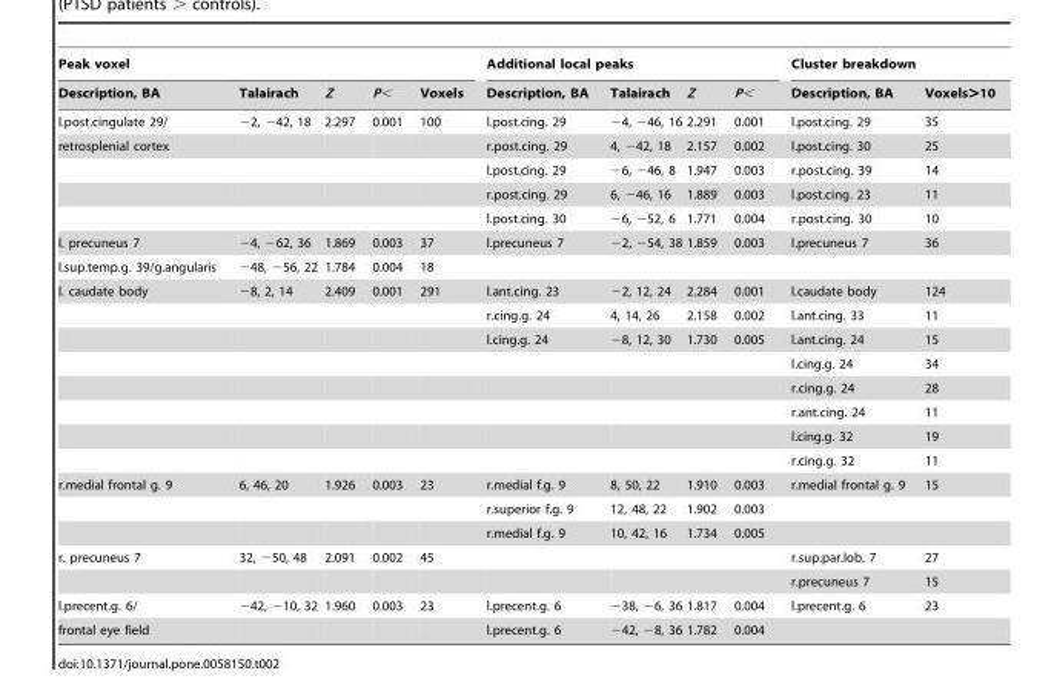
<table><thead><tr><td colspan="5">Peak voxel</td><td colspan="4">Additional local peaks</td><td colspan="2">Cluster breakdown</td></tr><tr><td>Description, BA</td><td>Talairach</td><td>Z</td><td>P&lt;</td><td>Voxels</td><td>Description, BA</td><td>Talairach</td><td>Z</td><td>P&lt;</td><td>Description, BA</td><td>Voxels&gt;10</td></tr></thead><tbody><tr><td>l.post.cingulate 29/</td><td>−2, −42, 18</td><td>2.297</td><td>0.001</td><td>100</td><td>l.post.cing. 29</td><td>−4, −46, 16</td><td>2.291</td><td>0.001</td><td>l.post.cing. 29</td><td>35</td></tr><tr><td rowspan="4">retrosplenial cortex</td><td></td><td></td><td></td><td></td><td>r.post.cing. 29</td><td>4, −42, 18</td><td>2.157</td><td>0.002</td><td>l.post.cing. 30</td><td>25</td></tr><tr><td></td><td></td><td></td><td></td><td>l.post.cing. 29</td><td>−6, −46, 8</td><td>1.947</td><td>0.003</td><td>r.post.cing. 39</td><td>14</td></tr><tr><td></td><td></td><td></td><td></td><td>r.post.cing. 29</td><td>6, −46, 16</td><td>1.889</td><td>0.003</td><td>l.post.cing. 23</td><td>11</td></tr><tr><td></td><td></td><td></td><td></td><td>l.post.cing. 30</td><td>−6, −52, 6</td><td>1.771</td><td>0.004</td><td>r.post.cing. 30</td><td>10</td></tr><tr><td>l. precuneus 7</td><td>−4, −62, 36</td><td>1.869</td><td>0.003</td><td>37</td><td>l.precuneus 7</td><td>−2, −54, 38</td><td>1.859</td><td>0.003</td><td>l.precuneus 7</td><td>36</td></tr><tr><td>l.sup.temp.g. 39/g.angularis</td><td>−48, −56, 22</td><td>1.784</td><td>0.004</td><td>18</td><td></td><td></td><td></td><td></td><td></td><td></td></tr><tr><td rowspan="8">l. caudate body</td><td>−8, 2, 14</td><td>2.409</td><td>0.001</td><td>291</td><td>l.ant.cing. 23</td><td>−2, 12, 24</td><td>2.284</td><td>0.001</td><td>l.caudate body</td><td>124</td></tr><tr><td></td><td></td><td></td><td></td><td>r.cing.g. 24</td><td>4, 14, 26</td><td>2.158</td><td>0.002</td><td>l.ant.cing. 33</td><td>11</td></tr><tr><td></td><td></td><td></td><td></td><td>l.cing.g. 24</td><td>−8, 12, 30</td><td>1.730</td><td>0.005</td><td>l.ant.cing. 24</td><td>15</td></tr><tr><td></td><td></td><td></td><td></td><td></td><td></td><td></td><td></td><td>l.cing.g. 24</td><td>34</td></tr><tr><td></td><td></td><td></td><td></td><td></td><td></td><td></td><td></td><td>r.cing.g. 24</td><td>28</td></tr><tr><td></td><td></td><td></td><td></td><td></td><td></td><td></td><td></td><td>r.ant.cing. 24</td><td>11</td></tr><tr><td></td><td></td><td></td><td></td><td></td><td></td><td></td><td></td><td>l.cing.g. 32</td><td>19</td></tr><tr><td></td><td></td><td></td><td></td><td></td><td></td><td></td><td></td><td>r.cing.g. 32</td><td>11</td></tr><tr><td rowspan="3">r.medial frontal g. 9</td><td>6, 46, 20</td><td>1.926</td><td>0.003</td><td>23</td><td>r.medial f.g. 9</td><td>8, 50, 22</td><td>1.910</td><td>0.003</td><td>r.medial frontal g. 9</td><td>15</td></tr><tr><td></td><td></td><td></td><td></td><td>r.superior f.g. 9</td><td>12, 48, 22</td><td>1.902</td><td>0.003</td><td></td><td></td></tr><tr><td></td><td></td><td></td><td></td><td>r.medial f.g. 9</td><td>10, 42, 16</td><td>1.734</td><td>0.005</td><td></td><td></td></tr><tr><td rowspan="2">r. precuneus 7</td><td>32, −50, 48</td><td>2.091</td><td>0.002</td><td>45</td><td></td><td></td><td></td><td></td><td>r.sup.par.lob. 7</td><td>27</td></tr><tr><td></td><td></td><td></td><td></td><td></td><td></td><td></td><td></td><td>r.precuneus 7</td><td>15</td></tr><tr><td>l.precent.g. 6/</td><td>−42, −10, 32</td><td>1.960</td><td>0.003</td><td>23</td><td>l.precent.g. 6</td><td>−38, −6, 36</td><td>1.817</td><td>0.004</td><td>l.precent.g. 6</td><td>23</td></tr><tr><td>frontal eye field</td><td></td><td></td><td></td><td></td><td>l.precent.g. 6</td><td>−42, −8, 36</td><td>1.782</td><td>0.004</td><td></td><td></td></tr></tbody></table>